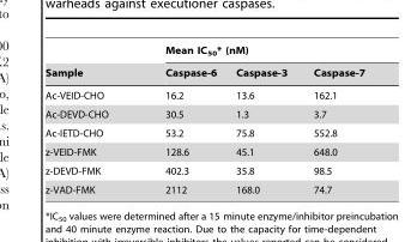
<table><thead><tr><td rowspan="2">Sample</td><td colspan="3">Mean IC<sub>50</sub>* (nM)</td></tr><tr><td>Caspase-6</td><td>Caspase-3</td><td>Caspase-7</td></tr></thead><tbody><tr><td>Ac-VEID-CHO</td><td>16.2</td><td>13.6</td><td>162.1</td></tr><tr><td>Ac-DEVD-CHO</td><td>30.5</td><td>1.3</td><td>3.7</td></tr><tr><td>Ac-IETD-CHO</td><td>53.2</td><td>75.8</td><td>552.8</td></tr><tr><td>z-VEID-FMK</td><td>128.6</td><td>45.1</td><td>648.0</td></tr><tr><td>z-DEVD-FMK</td><td>402.3</td><td>35.8</td><td>98.5</td></tr><tr><td>z-VAD-FMK</td><td>2112</td><td>168.0</td><td>74.7</td></tr></tbody></table>